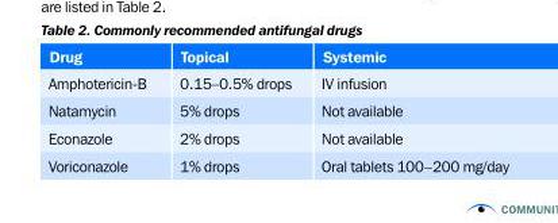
<table><thead><tr><td>Drug</td><td>Topical</td><td>Systemic</td></tr></thead><tbody><tr><td>Amphotericin-B</td><td>0.15–0.5% drops</td><td>IV infusion</td></tr><tr><td>Natamycin</td><td>5% drops</td><td>Not available</td></tr><tr><td>Econazole</td><td>2% drops</td><td>Not available</td></tr><tr><td>Voriconazole</td><td>1% drops</td><td>Oral tablets 100–200 mg/day</td></tr></tbody></table>